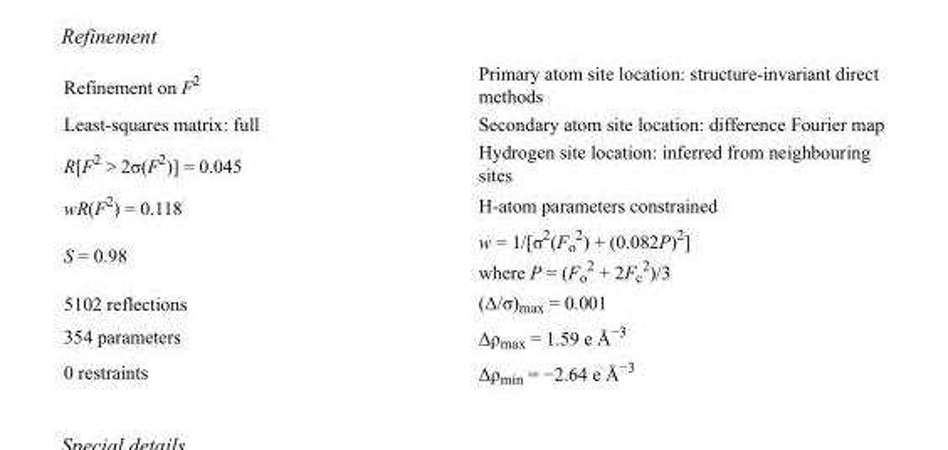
<table><tbody><tr><td>Refinement on F<sup>2</sup></td><td>Primary atom site location: structure-invariant direct methods</td></tr><tr><td>Least-squares matrix: full</td><td>Secondary atom site location: difference Fourier map</td></tr><tr><td>R[F<sup>2</sup> &gt; 2σ(F<sup>2</sup>)] = 0.045</td><td>Hydrogen site location: inferred from neighbouring sites</td></tr><tr><td>wR(F<sup>2</sup>) = 0.118</td><td>H-atom parameters constrained</td></tr><tr><td>S = 0.98</td><td>w = 1/[σ<sup>2</sup>(F<sub>o</sub> <sup>2</sup>) + (0.082P)<sup>2</sup>] where P = (F<sub>o</sub> <sup>2</sup> + 2F<sub>c</sub> <sup>2</sup>)/3</td></tr><tr><td>5102 reflections</td><td>(Δ/σ)<sub>max</sub> = 0.001</td></tr><tr><td>354 parameters</td><td>Δρ<sub>max</sub> = 1.59 e Å<sup>−3</sup></td></tr><tr><td>0 restraints</td><td>Δρ<sub>min</sub> = −2.64 e Å<sup>−3</sup></td></tr></tbody></table>